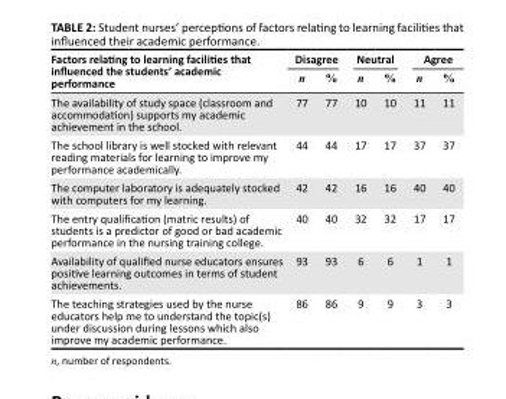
<table><thead><tr><td rowspan="2">Factors relating to learning facilities that influenced the students’ academic performance</td><td colspan="2">Disagree</td><td colspan="2">Neutral</td><td colspan="2">Agree</td></tr><tr><td>n</td><td>%</td><td>n</td><td>%</td><td>n</td><td>%</td></tr></thead><tbody><tr><td>The availability of study space (classroom and accommodation) supports my academic achievement in the school.</td><td>77</td><td>77</td><td>10</td><td>10</td><td>11</td><td>11</td></tr><tr><td>The school library is well stocked with relevant reading materials for learning to improve my performance academically.</td><td>44</td><td>44</td><td>17</td><td>17</td><td>37</td><td>37</td></tr><tr><td>The computer laboratory is adequately stocked with computers for my learning.</td><td>42</td><td>42</td><td>16</td><td>16</td><td>40</td><td>40</td></tr><tr><td>The entry qualification (matric results) of students is a predictor of good or bad academic performance in the nursing training college.</td><td>40</td><td>40</td><td>32</td><td>32</td><td>17</td><td>17</td></tr><tr><td>Availability of qualified nurse educators ensures positive learning outcomes in terms of student achievements.</td><td>93</td><td>93</td><td>6</td><td>6</td><td>1</td><td>1</td></tr><tr><td>The teaching strategies used by the nurse educators help me to understand the topic(s) under discussion during lessons which also improve my academic performance.</td><td>86</td><td>86</td><td>9</td><td>9</td><td>3</td><td>3</td></tr></tbody></table>